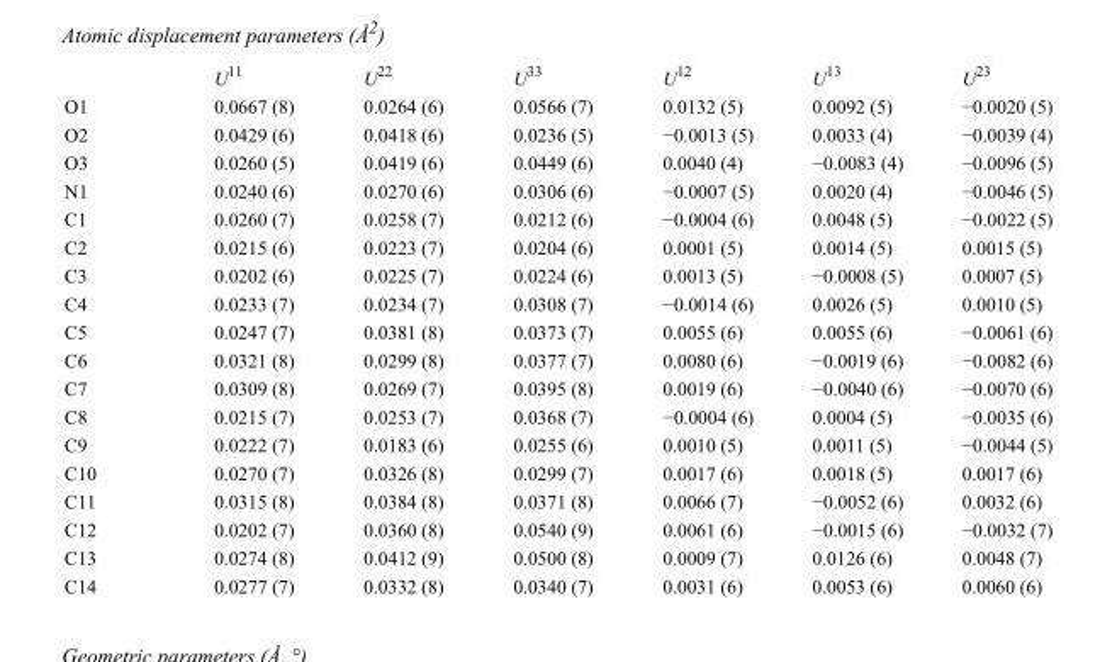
<table><thead><tr><td></td><td>U<sup>11</sup></td><td>U<sup>22</sup></td><td>U<sup>33</sup></td><td>U<sup>12</sup></td><td>U<sup>13</sup></td><td>U<sup>23</sup></td></tr></thead><tbody><tr><td>O1</td><td>0.0667 (8)</td><td>0.0264 (6)</td><td>0.0566 (7)</td><td>0.0132 (5)</td><td>0.0092 (5)</td><td>−0.0020 (5)</td></tr><tr><td>O2</td><td>0.0429 (6)</td><td>0.0418 (6)</td><td>0.0236 (5)</td><td>−0.0013 (5)</td><td>0.0033 (4)</td><td>−0.0039 (4)</td></tr><tr><td>O3</td><td>0.0260 (5)</td><td>0.0419 (6)</td><td>0.0449 (6)</td><td>0.0040 (4)</td><td>−0.0083 (4)</td><td>−0.0096 (5)</td></tr><tr><td>N1</td><td>0.0240 (6)</td><td>0.0270 (6)</td><td>0.0306 (6)</td><td>−0.0007 (5)</td><td>0.0020 (4)</td><td>−0.0046 (5)</td></tr><tr><td>C1</td><td>0.0260 (7)</td><td>0.0258 (7)</td><td>0.0212 (6)</td><td>−0.0004 (6)</td><td>0.0048 (5)</td><td>−0.0022 (5)</td></tr><tr><td>C2</td><td>0.0215 (6)</td><td>0.0223 (7)</td><td>0.0204 (6)</td><td>0.0001 (5)</td><td>0.0014 (5)</td><td>0.0015 (5)</td></tr><tr><td>C3</td><td>0.0202 (6)</td><td>0.0225 (7)</td><td>0.0224 (6)</td><td>0.0013 (5)</td><td>−0.0008 (5)</td><td>0.0007 (5)</td></tr><tr><td>C4</td><td>0.0233 (7)</td><td>0.0234 (7)</td><td>0.0308 (7)</td><td>−0.0014 (6)</td><td>0.0026 (5)</td><td>0.0010 (5)</td></tr><tr><td>C5</td><td>0.0247 (7)</td><td>0.0381 (8)</td><td>0.0373 (7)</td><td>0.0055 (6)</td><td>0.0055 (6)</td><td>−0.0061 (6)</td></tr><tr><td>C6</td><td>0.0321 (8)</td><td>0.0299 (8)</td><td>0.0377 (7)</td><td>0.0080 (6)</td><td>−0.0019 (6)</td><td>−0.0082 (6)</td></tr><tr><td>C7</td><td>0.0309 (8)</td><td>0.0269 (7)</td><td>0.0395 (8)</td><td>0.0019 (6)</td><td>−0.0040 (6)</td><td>−0.0070 (6)</td></tr><tr><td>C8</td><td>0.0215 (7)</td><td>0.0253 (7)</td><td>0.0368 (7)</td><td>−0.0004 (6)</td><td>0.0004 (5)</td><td>−0.0035 (6)</td></tr><tr><td>C9</td><td>0.0222 (7)</td><td>0.0183 (6)</td><td>0.0255 (6)</td><td>0.0010 (5)</td><td>0.0011 (5)</td><td>−0.0044 (5)</td></tr><tr><td>C10</td><td>0.0270 (7)</td><td>0.0326 (8)</td><td>0.0299 (7)</td><td>0.0017 (6)</td><td>0.0018 (5)</td><td>0.0017 (6)</td></tr><tr><td>C11</td><td>0.0315 (8)</td><td>0.0384 (8)</td><td>0.0371 (8)</td><td>0.0066 (7)</td><td>−0.0052 (6)</td><td>0.0032 (6)</td></tr><tr><td>C12</td><td>0.0202 (7)</td><td>0.0360 (8)</td><td>0.0540 (9)</td><td>0.0061 (6)</td><td>−0.0015 (6)</td><td>−0.0032 (7)</td></tr><tr><td>C13</td><td>0.0274 (8)</td><td>0.0412 (9)</td><td>0.0500 (8)</td><td>0.0009 (7)</td><td>0.0126 (6)</td><td>0.0048 (7)</td></tr><tr><td>C14</td><td>0.0277 (7)</td><td>0.0332 (8)</td><td>0.0340 (7)</td><td>0.0031 (6)</td><td>0.0053 (6)</td><td>0.0060 (6)</td></tr></tbody></table>